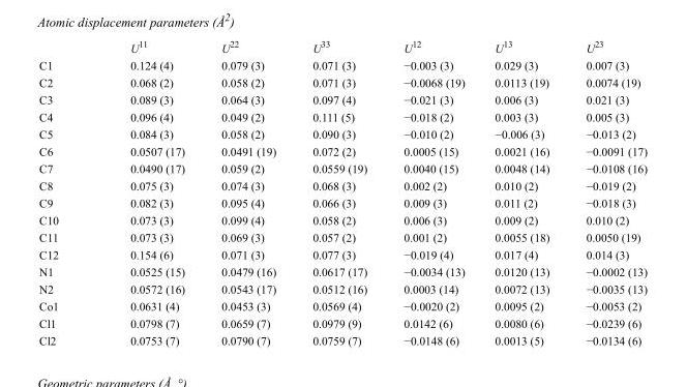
<table><thead><tr><td></td><td>U<sup>11</sup></td><td>U<sup>22</sup></td><td>U<sup>33</sup></td><td>U<sup>12</sup></td><td>U<sup>13</sup></td><td>U<sup>23</sup></td></tr></thead><tbody><tr><td>C1</td><td>0.124 (4)</td><td>0.079 (3)</td><td>0.071 (3)</td><td>−0.003 (3)</td><td>0.029 (3)</td><td>0.007 (3)</td></tr><tr><td>C2</td><td>0.068 (2)</td><td>0.058 (2)</td><td>0.071 (3)</td><td>−0.0068 (19)</td><td>0.0113 (19)</td><td>0.0074 (19)</td></tr><tr><td>C3</td><td>0.089 (3)</td><td>0.064 (3)</td><td>0.097 (4)</td><td>−0.021 (3)</td><td>0.006 (3)</td><td>0.021 (3)</td></tr><tr><td>C4</td><td>0.096 (4)</td><td>0.049 (2)</td><td>0.111 (5)</td><td>−0.018 (2)</td><td>0.003 (3)</td><td>0.005 (3)</td></tr><tr><td>C5</td><td>0.084 (3)</td><td>0.058 (2)</td><td>0.090 (3)</td><td>−0.010 (2)</td><td>−0.006 (3)</td><td>−0.013 (2)</td></tr><tr><td>C6</td><td>0.0507 (17)</td><td>0.0491 (19)</td><td>0.072 (2)</td><td>0.0005 (15)</td><td>0.0021 (16)</td><td>−0.0091 (17)</td></tr><tr><td>C7</td><td>0.0490 (17)</td><td>0.059 (2)</td><td>0.0559 (19)</td><td>0.0040 (15)</td><td>0.0048 (14)</td><td>−0.0108 (16)</td></tr><tr><td>C8</td><td>0.075 (3)</td><td>0.074 (3)</td><td>0.068 (3)</td><td>0.002 (2)</td><td>0.010 (2)</td><td>−0.019 (2)</td></tr><tr><td>C9</td><td>0.082 (3)</td><td>0.095 (4)</td><td>0.066 (3)</td><td>0.009 (3)</td><td>0.011 (2)</td><td>−0.018 (3)</td></tr><tr><td>C10</td><td>0.073 (3)</td><td>0.099 (4)</td><td>0.058 (2)</td><td>0.006 (3)</td><td>0.009 (2)</td><td>0.010 (2)</td></tr><tr><td>C11</td><td>0.073 (3)</td><td>0.069 (3)</td><td>0.057 (2)</td><td>0.001 (2)</td><td>0.0055 (18)</td><td>0.0050 (19)</td></tr><tr><td>C12</td><td>0.154 (6)</td><td>0.071 (3)</td><td>0.077 (3)</td><td>−0.019 (4)</td><td>0.017 (4)</td><td>0.014 (3)</td></tr><tr><td>N1</td><td>0.0525 (15)</td><td>0.0479 (16)</td><td>0.0617 (17)</td><td>−0.0034 (13)</td><td>0.0120 (13)</td><td>−0.0002 (13)</td></tr><tr><td>N2</td><td>0.0572 (16)</td><td>0.0543 (17)</td><td>0.0512 (16)</td><td>0.0003 (14)</td><td>0.0072 (13)</td><td>−0.0035 (13)</td></tr><tr><td>Co1</td><td>0.0631 (4)</td><td>0.0453 (3)</td><td>0.0569 (4)</td><td>−0.0020 (2)</td><td>0.0095 (2)</td><td>−0.0053 (2)</td></tr><tr><td>Cl1</td><td>0.0798 (7)</td><td>0.0659 (7)</td><td>0.0979 (9)</td><td>0.0142 (6)</td><td>0.0080 (6)</td><td>−0.0239 (6)</td></tr><tr><td>Cl2</td><td>0.0753 (7)</td><td>0.0790 (7)</td><td>0.0759 (7)</td><td>−0.0148 (6)</td><td>0.0013 (5)</td><td>−0.0134 (6)</td></tr></tbody></table>